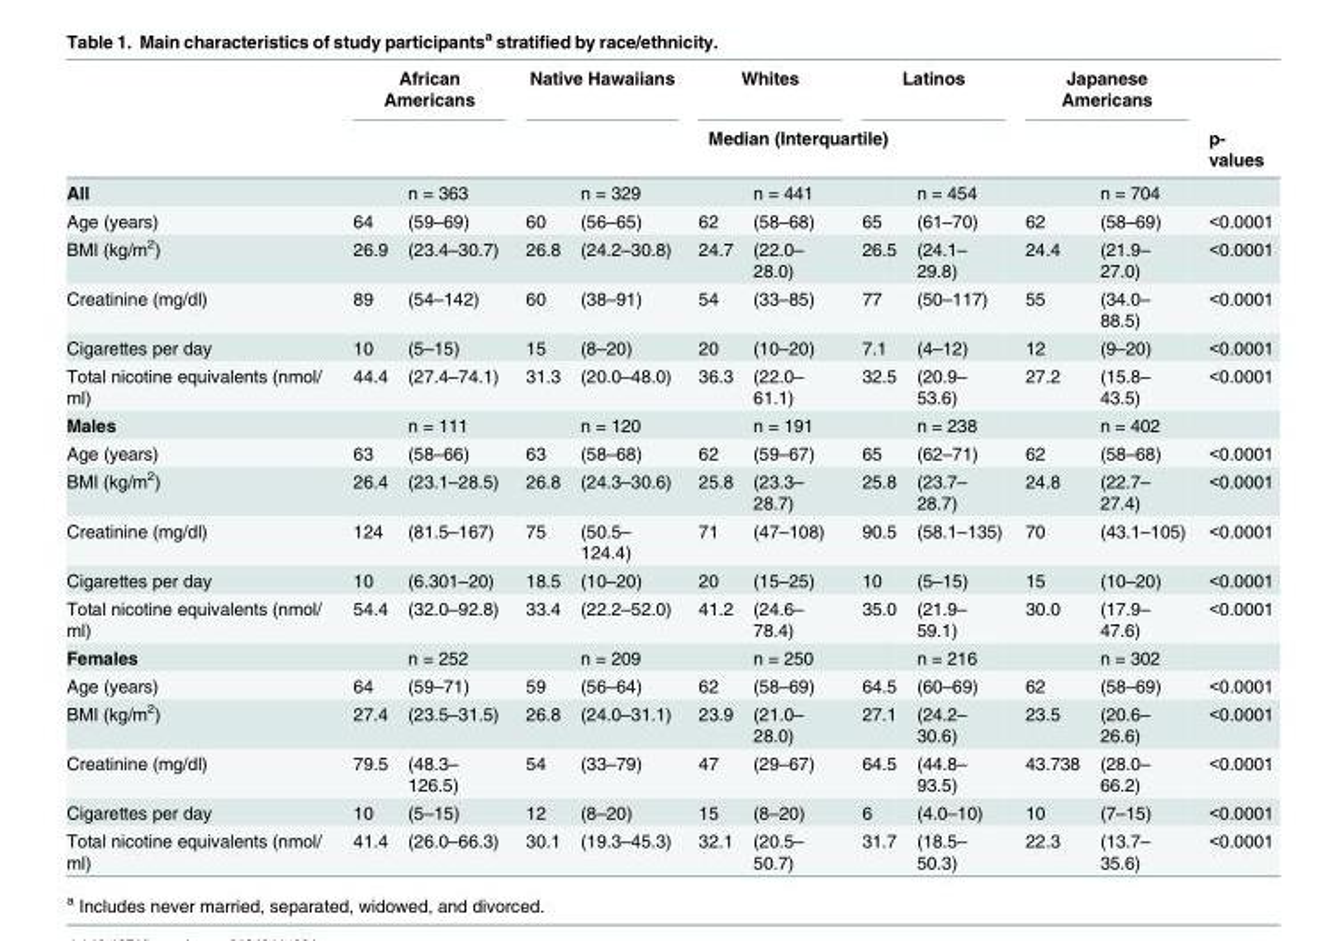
<table><thead><tr><td rowspan="3">All</td><td colspan="2">African Americans</td><td colspan="2">Native Hawaiians</td><td colspan="2">Whites</td><td colspan="2">Latinos</td><td colspan="2">Japanese Americans</td><td rowspan="3">p- values</td></tr><tr><td rowspan="2"></td><td colspan="9">Median (Interquartile)</td></tr><tr><td>n = 363</td><td></td><td>n = 329</td><td></td><td>n = 441</td><td></td><td>n = 454</td><td></td><td>n = 704</td></tr></thead><tbody><tr><td>Age (years)</td><td>64</td><td>(59–69)</td><td>60</td><td>(56–65)</td><td>62</td><td>(58–68)</td><td>65</td><td>(61–70)</td><td>62</td><td>(58–69)</td><td>&lt;0.0001</td></tr><tr><td>BMI (kg/m<sup>2</sup>)</td><td>26.9</td><td>(23.4–30.7)</td><td>26.8</td><td>(24.2–30.8)</td><td>24.7</td><td>(22.0– 28.0)</td><td>26.5</td><td>(24.1– 29.8)</td><td>24.4</td><td>(21.9– 27.0)</td><td>&lt;0.0001</td></tr><tr><td>Creatinine (mg/dl)</td><td>89</td><td>(54–142)</td><td>60</td><td>(38–91)</td><td>54</td><td>(33–85)</td><td>77</td><td>(50–117)</td><td>55</td><td>(34.0– 88.5)</td><td>&lt;0.0001</td></tr><tr><td>Cigarettes per day</td><td>10</td><td>(5–15)</td><td>15</td><td>(8–20)</td><td>20</td><td>(10–20)</td><td>7.1</td><td>(4–12)</td><td>12</td><td>(9–20)</td><td>&lt;0.0001</td></tr><tr><td>Total nicotine equivalents (nmol/ ml)</td><td>44.4</td><td>(27.4–74.1)</td><td>31.3</td><td>(20.0–48.0)</td><td>36.3</td><td>(22.0– 61.1)</td><td>32.5</td><td>(20.9– 53.6)</td><td>27.2</td><td>(15.8– 43.5)</td><td>&lt;0.0001</td></tr><tr><td>Males</td><td></td><td>n = 111</td><td></td><td>n = 120</td><td></td><td>n = 191</td><td></td><td>n = 238</td><td></td><td>n = 402</td><td></td></tr><tr><td>Age (years)</td><td>63</td><td>(58–66)</td><td>63</td><td>(58–68)</td><td>62</td><td>(59–67)</td><td>65</td><td>(62–71)</td><td>62</td><td>(58–68)</td><td>&lt;0.0001</td></tr><tr><td>BMI (kg/m<sup>2</sup>)</td><td>26.4</td><td>(23.1–28.5)</td><td>26.8</td><td>(24.3–30.6)</td><td>25.8</td><td>(23.3– 28.7)</td><td>25.8</td><td>(23.7– 28.7)</td><td>24.8</td><td>(22.7– 27.4)</td><td>&lt;0.0001</td></tr><tr><td>Creatinine (mg/dl)</td><td>124</td><td>(81.5–167)</td><td>75</td><td>(50.5– 124.4)</td><td>71</td><td>(47–108)</td><td>90.5</td><td>(58.1–135)</td><td>70</td><td>(43.1–105)</td><td>&lt;0.0001</td></tr><tr><td>Cigarettes per day</td><td>10</td><td>(6.301–20)</td><td>18.5</td><td>(10–20)</td><td>20</td><td>(15–25)</td><td>10</td><td>(5–15)</td><td>15</td><td>(10–20)</td><td>&lt;0.0001</td></tr><tr><td>Total nicotine equivalents (nmol/ ml)</td><td>54.4</td><td>(32.0–92.8)</td><td>33.4</td><td>(22.2–52.0)</td><td>41.2</td><td>(24.6– 78.4)</td><td>35.0</td><td>(21.9– 59.1)</td><td>30.0</td><td>(17.9– 47.6)</td><td>&lt;0.0001</td></tr><tr><td>Females</td><td></td><td>n = 252</td><td></td><td>n = 209</td><td></td><td>n = 250</td><td></td><td>n = 216</td><td></td><td>n = 302</td><td></td></tr><tr><td>Age (years)</td><td>64</td><td>(59–71)</td><td>59</td><td>(56–64)</td><td>62</td><td>(58–69)</td><td>64.5</td><td>(60–69)</td><td>62</td><td>(58–69)</td><td>&lt;0.0001</td></tr><tr><td>BMI (kg/m<sup>2</sup>)</td><td>27.4</td><td>(23.5–31.5)</td><td>26.8</td><td>(24.0–31.1)</td><td>23.9</td><td>(21.0– 28.0)</td><td>27.1</td><td>(24.2– 30.6)</td><td>23.5</td><td>(20.6– 26.6)</td><td>&lt;0.0001</td></tr><tr><td>Creatinine (mg/dl)</td><td>79.5</td><td>(48.3– 126.5)</td><td>54</td><td>(33–79)</td><td>47</td><td>(29–67)</td><td>64.5</td><td>(44.8– 93.5)</td><td>43.738</td><td>(28.0– 66.2)</td><td>&lt;0.0001</td></tr><tr><td>Cigarettes per day</td><td>10</td><td>(5–15)</td><td>12</td><td>(8–20)</td><td>15</td><td>(8–20)</td><td>6</td><td>(4.0–10)</td><td>10</td><td>(7–15)</td><td>&lt;0.0001</td></tr><tr><td>Total nicotine equivalents (nmol/ ml)</td><td>41.4</td><td>(26.0–66.3)</td><td>30.1</td><td>(19.3–45.3)</td><td>32.1</td><td>(20.5– 50.7)</td><td>31.7</td><td>(18.5– 50.3)</td><td>22.3</td><td>(13.7– 35.6)</td><td>&lt;0.0001</td></tr></tbody></table>